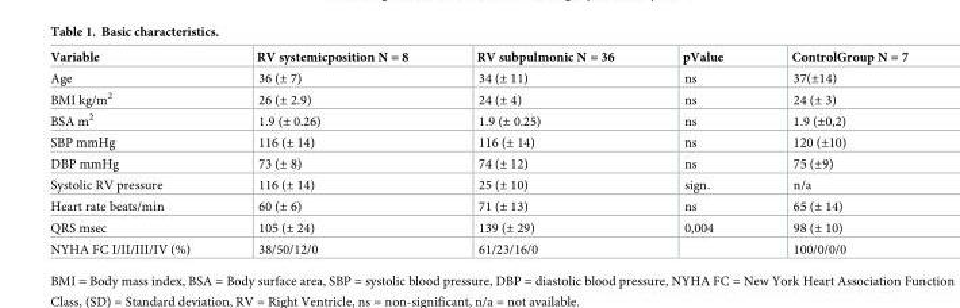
<table><thead><tr><td>Variable</td><td>RV systemicposition N = 8</td><td>RV subpulmonic N = 36</td><td>pValue</td><td>ControlGroup N = 7</td></tr></thead><tbody><tr><td>Age</td><td>36 (± 7)</td><td>34 (± 11)</td><td>ns</td><td>37(±14)</td></tr><tr><td>BMI kg/m<sup>2</sup></td><td>26 (± 2.9)</td><td>24 (± 4)</td><td>ns</td><td>24 (± 3)</td></tr><tr><td>BSA m<sup>2</sup></td><td>1.9 (± 0.26)</td><td>1.9 (± 0.25)</td><td>ns</td><td>1.9 (±0,2)</td></tr><tr><td>SBP mmHg</td><td>116 (± 14)</td><td>116 (± 14)</td><td>ns</td><td>120 (±10)</td></tr><tr><td>DBP mmHg</td><td>73 (± 8)</td><td>74 (± 12)</td><td>ns</td><td>75 (±9)</td></tr><tr><td>Systolic RV pressure</td><td>116 (± 14)</td><td>25 (± 10)</td><td>sign.</td><td>n/a</td></tr><tr><td>Heart rate beats/min</td><td>60 (± 6)</td><td>71 (± 13)</td><td>ns</td><td>65 (± 14)</td></tr><tr><td>QRS msec</td><td>105 (± 24)</td><td>139 (± 29)</td><td>0,004</td><td>98 (± 10)</td></tr><tr><td>NYHA FC I/II/III/IV (%)</td><td>38/50/12/0</td><td>61/23/16/0</td><td></td><td>100/0/0/0</td></tr></tbody></table>